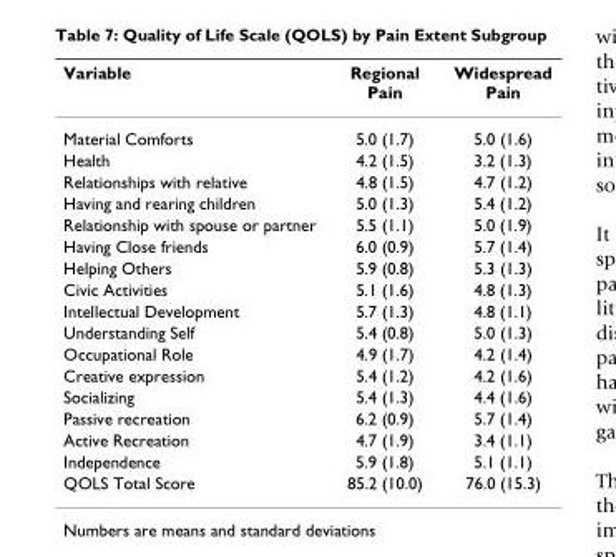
<table><thead><tr><td>Variable</td><td>Regional Pain</td><td>Widespread Pain</td></tr></thead><tbody><tr><td>Material Comforts</td><td>5.0 (1.7)</td><td>5.0 (1.6)</td></tr><tr><td>Health</td><td>4.2 (1.5)</td><td>3.2 (1.3)</td></tr><tr><td>Relationships with relative</td><td>4.8 (1.5)</td><td>4.7 (1.2)</td></tr><tr><td>Having and rearing children</td><td>5.0 (1.3)</td><td>5.4 (1.2)</td></tr><tr><td>Relationship with spouse or partner</td><td>5.5 (1.1)</td><td>5.0 (1.9)</td></tr><tr><td>Having Close friends</td><td>6.0 (0.9)</td><td>5.7 (1.4)</td></tr><tr><td>Helping Others</td><td>5.9 (0.8)</td><td>5.3 (1.3)</td></tr><tr><td>Civic Activities</td><td>5.1 (1.6)</td><td>4.8 (1.3)</td></tr><tr><td>Intellectual Development</td><td>5.7 (1.3)</td><td>4.8 (1.1)</td></tr><tr><td>Understanding Self</td><td>5.4 (0.8)</td><td>5.0 (1.3)</td></tr><tr><td>Occupational Role</td><td>4.9 (1.7)</td><td>4.2 (1.4)</td></tr><tr><td>Creative expression</td><td>5.4 (1.2)</td><td>4.2 (1.6)</td></tr><tr><td>Socializing</td><td>5.4 (1.3)</td><td>4.4 (1.6)</td></tr><tr><td>Passive recreation</td><td>6.2 (0.9)</td><td>5.7 (1.4)</td></tr><tr><td>Active Recreation</td><td>4.7 (1.9)</td><td>3.4 (1.1)</td></tr><tr><td>Independence</td><td>5.9 (1.8)</td><td>5.1 (1.1)</td></tr><tr><td>QOLS Total Score</td><td>85.2 (10.0)</td><td>76.0 (15.3)</td></tr></tbody></table>